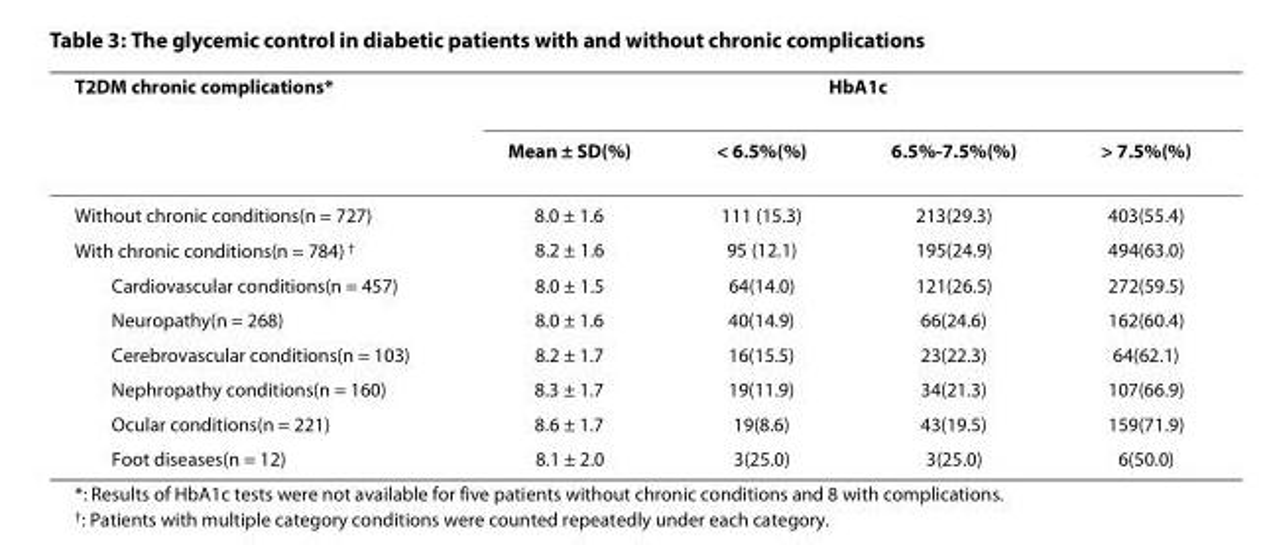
<table><thead><tr><td rowspan="2">T2DM chronic complications*</td><td colspan="4">HbA1c</td></tr><tr><td>Mean ± SD(%)</td><td>&lt; 6.5%(%)</td><td>6.5%-7.5%(%)</td><td>&gt; 7.5%(%)</td></tr></thead><tbody><tr><td>Without chronic conditions(n = 727)</td><td>8.0 ± 1.6</td><td>111 (15.3)</td><td>213(29.3)</td><td>403(55.4)</td></tr><tr><td>With chronic conditions(n = 784) <sup>†</sup></td><td>8.2 ± 1.6</td><td>95 (12.1)</td><td>195(24.9)</td><td>494(63.0)</td></tr><tr><td>Cardiovascular conditions(n = 457)</td><td>8.0 ± 1.5</td><td>64(14.0)</td><td>121(26.5)</td><td>272(59.5)</td></tr><tr><td>Neuropathy(n = 268)</td><td>8.0 ± 1.6</td><td>40(14.9)</td><td>66(24.6)</td><td>162(60.4)</td></tr><tr><td>Cerebrovascular conditions(n = 103)</td><td>8.2 ± 1.7</td><td>16(15.5)</td><td>23(22.3)</td><td>64(62.1)</td></tr><tr><td>Nephropathy conditions(n = 160)</td><td>8.3 ± 1.7</td><td>19(11.9)</td><td>34(21.3)</td><td>107(66.9)</td></tr><tr><td>Ocular conditions(n = 221)</td><td>8.6 ± 1.7</td><td>19(8.6)</td><td>43(19.5)</td><td>159(71.9)</td></tr><tr><td>Foot diseases(n = 12)</td><td>8.1 ± 2.0</td><td>3(25.0)</td><td>3(25.0)</td><td>6(50.0)</td></tr></tbody></table>